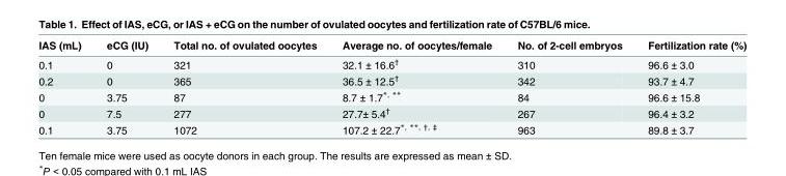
<table><thead><tr><td>IAS (mL)</td><td>eCG (IU)</td><td>Total no. of ovulated oocytes</td><td>Average no. of oocytes/female</td><td>No. of 2-cell embryos</td><td>Fertilization rate (%)</td></tr></thead><tbody><tr><td>0.1</td><td>0</td><td>321</td><td>32.1 ± 16.6<sup>†</sup></td><td>310</td><td>96.6 ± 3.0</td></tr><tr><td>0.2</td><td>0</td><td>365</td><td>36.5 ± 12.5<sup>†</sup></td><td>342</td><td>93.7 ± 4.7</td></tr><tr><td>0</td><td>3.75</td><td>87</td><td>8.7 ± 1.7<sup>*, **</sup></td><td>84</td><td>96.6 ± 15.8</td></tr><tr><td>0</td><td>7.5</td><td>277</td><td>27.7± 5.4<sup>†</sup></td><td>267</td><td>96.4 ± 3.2</td></tr><tr><td>0.1</td><td>3.75</td><td>1072</td><td>107.2 ± 22.7<sup>*, **, †, ‡</sup></td><td>963</td><td>89.8 ± 3.7</td></tr></tbody></table>